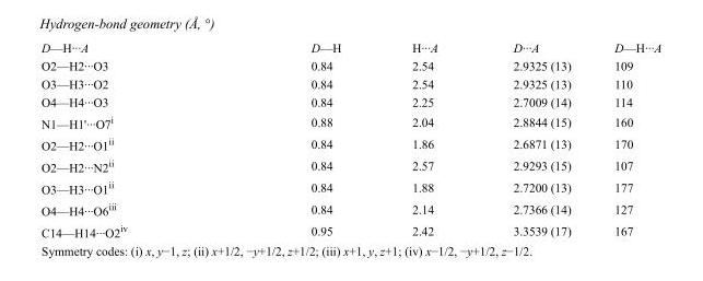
<table><tbody><tr><td>D—H···A</td><td>D—H</td><td>H···A</td><td>D···A</td><td>D—H···A</td></tr><tr><td>O2—H2···O3</td><td>0.84</td><td>2.54</td><td>2.9325 (13)</td><td>109</td></tr><tr><td>O3—H3···O2</td><td>0.84</td><td>2.54</td><td>2.9325 (13)</td><td>110</td></tr><tr><td>O4—H4···O3</td><td>0.84</td><td>2.25</td><td>2.7009 (14)</td><td>114</td></tr><tr><td>N1—H1&#x27;···O7<sup>i</sup></td><td>0.88</td><td>2.04</td><td>2.8844 (15)</td><td>160</td></tr><tr><td>O2—H2···O1<sup>ii</sup></td><td>0.84</td><td>1.86</td><td>2.6871 (13)</td><td>170</td></tr><tr><td>O2—H2···N2<sup>ii</sup></td><td>0.84</td><td>2.57</td><td>2.9293 (15)</td><td>107</td></tr><tr><td>O3—H3···O1<sup>ii</sup></td><td>0.84</td><td>1.88</td><td>2.7200 (13)</td><td>177</td></tr><tr><td>O4—H4···O6<sup>iii</sup></td><td>0.84</td><td>2.14</td><td>2.7366 (14)</td><td>127</td></tr><tr><td>C14—H14···O2<sup>iv</sup></td><td>0.95</td><td>2.42</td><td>3.3539 (17)</td><td>167</td></tr></tbody></table>